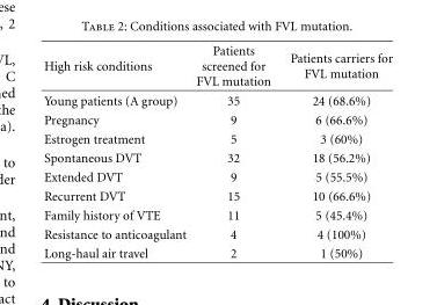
<table><thead><tr><td>High risk conditions</td><td>Patients screened for FVL mutation</td><td>Patients carriers for FVL mutation</td></tr></thead><tbody><tr><td>Young patients (A group)</td><td>35</td><td>24 (68.6%)</td></tr><tr><td>Pregnancy</td><td>9</td><td>6 (66.6%)</td></tr><tr><td>Estrogen treatment</td><td>5</td><td>3 (60%)</td></tr><tr><td>Spontaneous DVT</td><td>32</td><td>18 (56.2%)</td></tr><tr><td>Extended DVT</td><td>9</td><td>5 (55.5%)</td></tr><tr><td>Recurrent DVT</td><td>15</td><td>10 (66.6%)</td></tr><tr><td>Family history of VTE</td><td>11</td><td>5 (45.4%)</td></tr><tr><td>Resistance to anticoagulant</td><td>4</td><td>4 (100%)</td></tr><tr><td>Long-haul air travel</td><td>2</td><td>1 (50%)</td></tr></tbody></table>